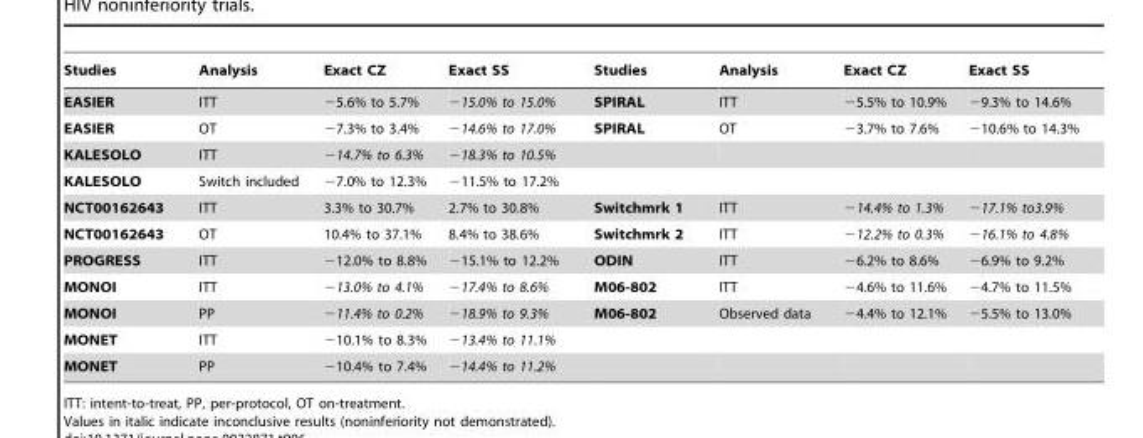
<table><thead><tr><td>Studies</td><td>Analysis</td><td>Exact CZ</td><td>Exact SS</td><td>Studies</td><td>Analysis</td><td>Exact CZ</td><td>Exact SS</td></tr></thead><tbody><tr><td>EASIER</td><td>ITT</td><td>−5.6% to 5.7%</td><td>−15.0% to 15.0%</td><td>SPIRAL</td><td>ITT</td><td>−5.5% to 10.9%</td><td>−9.3% to 14.6%</td></tr><tr><td>EASIER</td><td>OT</td><td>−7.3% to 3.4%</td><td>−14.6% to 17.0%</td><td>SPIRAL</td><td>OT</td><td>−3.7% to 7.6%</td><td>−10.6% to 14.3%</td></tr><tr><td>KALESOLO</td><td>ITT</td><td>−14.7% to 6.3%</td><td>−18.3% to 10.5%</td><td></td><td></td><td></td><td></td></tr><tr><td>KALESOLO</td><td>Switch included</td><td>−7.0% to 12.3%</td><td>−11.5% to 17.2%</td><td></td><td></td><td></td><td></td></tr><tr><td>NCT00162643</td><td>ITT</td><td>3.3% to 30.7%</td><td>2.7% to 30.8%</td><td>Switchmrk 1</td><td>ITT</td><td>−14.4% to 1.3%</td><td>−17.1% to3.9%</td></tr><tr><td>NCT00162643</td><td>OT</td><td>10.4% to 37.1%</td><td>8.4% to 38.6%</td><td>Switchmrk 2</td><td>ITT</td><td>−12.2% to 0.3%</td><td>−16.1% to 4.8%</td></tr><tr><td>PROGRESS</td><td>ITT</td><td>−12.0% to 8.8%</td><td>−15.1% to 12.2%</td><td>ODIN</td><td>ITT</td><td>−6.2% to 8.6%</td><td>−6.9% to 9.2%</td></tr><tr><td>MONOI</td><td>ITT</td><td>−13.0% to 4.1%</td><td>−17.4% to 8.6%</td><td>M06-802</td><td>ITT</td><td>−4.6% to 11.6%</td><td>−4.7% to 11.5%</td></tr><tr><td>MONOI</td><td>PP</td><td>−11.4% to 0.2%</td><td>−18.9% to 9.3%</td><td>M06-802</td><td>Observed data</td><td>−4.4% to 12.1%</td><td>−5.5% to 13.0%</td></tr><tr><td>MONET</td><td>ITT</td><td>−10.1% to 8.3%</td><td>−13.4% to 11.1%</td><td></td><td></td><td></td><td></td></tr><tr><td>MONET</td><td>PP</td><td>−10.4% to 7.4%</td><td>−14.4% to 11.2%</td><td></td><td></td><td></td><td></td></tr></tbody></table>